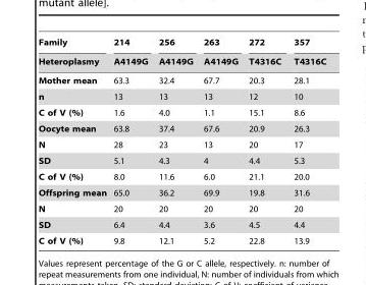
<table><thead><tr><td rowspan="2">Family Heteroplasmy</td><td rowspan="2">214 A4149G</td><td rowspan="2">256 A4149G</td><td rowspan="2">263 A4149G</td><td rowspan="2">272 T4316C</td><td rowspan="2">357 T4316C</td></tr><tr></tr></thead><tbody><tr><td>Mother mean</td><td>63.3</td><td>32.4</td><td>67.7</td><td>20.3</td><td>28.1</td></tr><tr><td>n</td><td>13</td><td>13</td><td>13</td><td>12</td><td>10</td></tr><tr><td>C of V (%)</td><td>1.6</td><td>4.0</td><td>1.1</td><td>15.1</td><td>8.6</td></tr><tr><td>Oocyte mean</td><td>63.8</td><td>37.4</td><td>67.6</td><td>20.9</td><td>26.3</td></tr><tr><td>N</td><td>28</td><td>23</td><td>13</td><td>20</td><td>17</td></tr><tr><td>SD</td><td>5.1</td><td>4.3</td><td>4</td><td>4.4</td><td>5.3</td></tr><tr><td>C of V (%)</td><td>8.0</td><td>11.6</td><td>6.0</td><td>21.1</td><td>20.0</td></tr><tr><td>Offspring mean</td><td>65.0</td><td>36.2</td><td>69.9</td><td>19.8</td><td>31.6</td></tr><tr><td>N</td><td>20</td><td>20</td><td>20</td><td>20</td><td>20</td></tr><tr><td>SD</td><td>6.4</td><td>4.4</td><td>3.6</td><td>4.5</td><td>4.4</td></tr><tr><td>C of V (%)</td><td>9.8</td><td>12.1</td><td>5.2</td><td>22.8</td><td>13.9</td></tr></tbody></table>